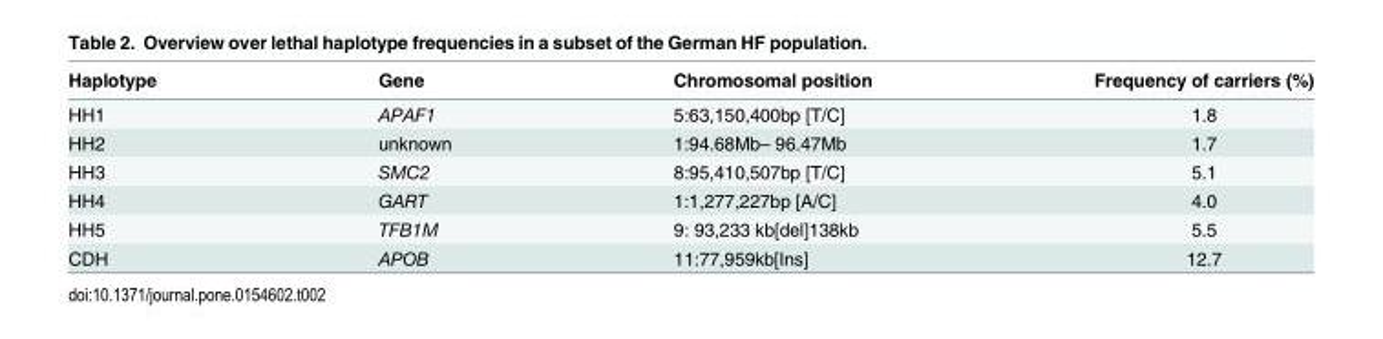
<table><thead><tr><td>Haplotype</td><td>Gene</td><td>Chromosomal position</td><td>Frequency of carriers (%)</td></tr></thead><tbody><tr><td>HH1</td><td>APAF1</td><td>5:63,150,400bp [T/C]</td><td>1.8</td></tr><tr><td>HH2</td><td>unknown</td><td>1:94.68Mb– 96.47Mb</td><td>1.7</td></tr><tr><td>HH3</td><td>SMC2</td><td>8:95,410,507bp [T/C]</td><td>5.1</td></tr><tr><td>HH4</td><td>GART</td><td>1:1,277,227bp [A/C]</td><td>4.0</td></tr><tr><td>HH5</td><td>TFB1M</td><td>9: 93,233 kb[del]138kb</td><td>5.5</td></tr><tr><td>CDH</td><td>APOB</td><td>11:77,959kb[Ins]</td><td>12.7</td></tr></tbody></table>